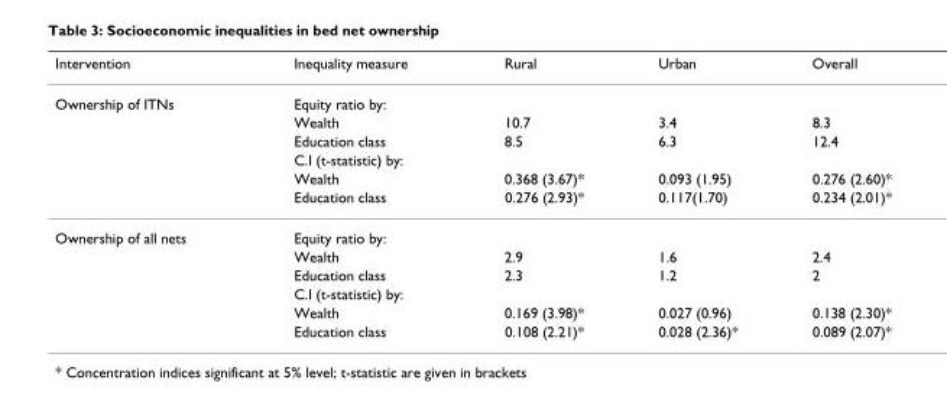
<table><thead><tr><td>Intervention</td><td>Inequality measure</td><td>Rural</td><td>Urban</td><td>Overall</td></tr></thead><tbody><tr><td rowspan="6">Ownership of ITNs</td><td>Equity ratio by:</td><td></td><td></td><td></td></tr><tr><td>Wealth</td><td>10.7</td><td>3.4</td><td>8.3</td></tr><tr><td>Education class</td><td>8.5</td><td>6.3</td><td>12.4</td></tr><tr><td>C.I (t-statistic) by:</td><td></td><td></td><td></td></tr><tr><td>Wealth</td><td>0.368 (3.67)*</td><td>0.093 (1.95)</td><td>0.276 (2.60)*</td></tr><tr><td>Education class</td><td>0.276 (2.93)*</td><td>0.117(1.70)</td><td>0.234 (2.01)*</td></tr><tr><td rowspan="6">Ownership of all nets</td><td>Equity ratio by:</td><td></td><td></td><td></td></tr><tr><td>Wealth</td><td>2.9</td><td>1.6</td><td>2.4</td></tr><tr><td>Education class</td><td>2.3</td><td>1.2</td><td>2</td></tr><tr><td>C.I (t-statistic) by:</td><td></td><td></td><td></td></tr><tr><td>Wealth</td><td>0.169 (3.98)*</td><td>0.027 (0.96)</td><td>0.138 (2.30)*</td></tr><tr><td>Education class</td><td>0.108 (2.21)*</td><td>0.028 (2.36)*</td><td>0.089 (2.07)*</td></tr></tbody></table>